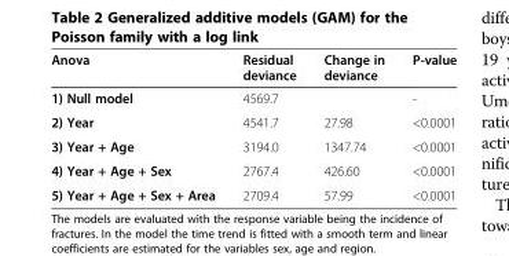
<table><thead><tr><td>Anova</td><td>Residual deviance</td><td>Change in deviance</td><td>P-value</td></tr></thead><tbody><tr><td>1) Null model</td><td>4569.7</td><td></td><td>-</td></tr><tr><td>2) Year</td><td>4541.7</td><td>27.98</td><td>&lt;0.0001</td></tr><tr><td>3) Year + Age</td><td>3194.0</td><td>1347.74</td><td>&lt;0.0001</td></tr><tr><td>4) Year + Age + Sex</td><td>2767.4</td><td>426.60</td><td>&lt;0.0001</td></tr><tr><td>5) Year + Age + Sex + Area</td><td>2709.4</td><td>57.99</td><td>&lt;0.0001</td></tr></tbody></table>